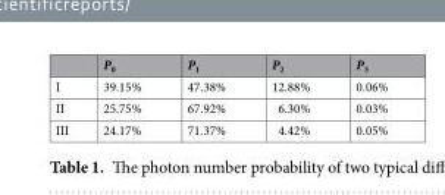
<table><thead><tr><td></td><td>P<sub>0</sub></td><td>P<sub>1</sub></td><td>P<sub>2</sub></td><td>P<sub>3</sub></td></tr></thead><tbody><tr><td>I</td><td>39.15%</td><td>47.38%</td><td>12.88%</td><td>0.06%</td></tr><tr><td>II</td><td>25.75%</td><td>67.92%</td><td>6.30%</td><td>0.03%</td></tr><tr><td>III</td><td>24.17%</td><td>71.37%</td><td>4.42%</td><td>0.05%</td></tr></tbody></table>